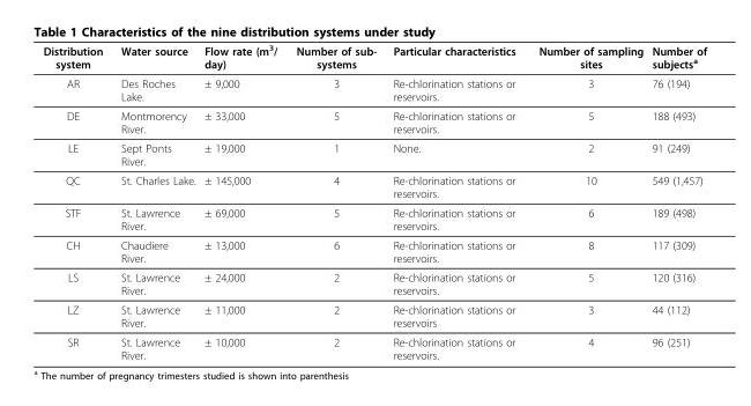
<table><thead><tr><td>Distribution system</td><td>Water source</td><td>Flow rate (m<sup>3</sup>/ day)</td><td>Number of sub- systems</td><td>Particular characteristics</td><td>Number of sampling sites</td><td>Number of subjects<sup>a</sup></td></tr></thead><tbody><tr><td>AR</td><td>Des Roches Lake.</td><td>± 9,000</td><td>3</td><td>Re-chlorination stations or reservoirs.</td><td>3</td><td>76 (194)</td></tr><tr><td>DE</td><td>Montmorency River.</td><td>± 33,000</td><td>5</td><td>Re-chlorination stations or reservoirs.</td><td>5</td><td>188 (493)</td></tr><tr><td>LE</td><td>Sept Ponts River.</td><td>± 19,000</td><td>1</td><td>None.</td><td>2</td><td>91 (249)</td></tr><tr><td>QC</td><td>St. Charles Lake.</td><td>± 145,000</td><td>4</td><td>Re-chlorination stations or reservoirs.</td><td>10</td><td>549 (1,457)</td></tr><tr><td>STF</td><td>St. Lawrence River.</td><td>± 69,000</td><td>5</td><td>Re-chlorination stations or reservoirs.</td><td>6</td><td>189 (498)</td></tr><tr><td>CH</td><td>Chaudiere River.</td><td>± 13,000</td><td>6</td><td>Re-chlorination stations or reservoirs.</td><td>8</td><td>117 (309)</td></tr><tr><td>LS</td><td>St. Lawrence River.</td><td>± 24,000</td><td>2</td><td>Re-chlorination stations or reservoirs.</td><td>5</td><td>120 (316)</td></tr><tr><td>LZ</td><td>St. Lawrence River.</td><td>± 11,000</td><td>2</td><td>Re-chlorination stations or reservoirs</td><td>3</td><td>44 (112)</td></tr><tr><td>SR</td><td>St. Lawrence River.</td><td>± 10,000</td><td>2</td><td>Re-chlorination stations or reservoirs.</td><td>4</td><td>96 (251)</td></tr></tbody></table>